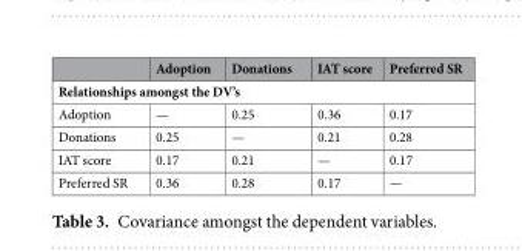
<table><thead><tr><td></td><td>Adoption</td><td>Donations</td><td>IAT score</td><td>Preferred SR</td></tr></thead><tbody><tr><td colspan="5">Relationships amongst the DV’s</td></tr><tr><td>Adoption</td><td>—</td><td>0.25</td><td>0.36</td><td>0.17</td></tr><tr><td>Donations</td><td>0.25</td><td>—</td><td>0.21</td><td>0.28</td></tr><tr><td>IAT score</td><td>0.17</td><td>0.21</td><td>—</td><td>0.17</td></tr><tr><td>Preferred SR</td><td>0.36</td><td>0.28</td><td>0.17</td><td>—</td></tr></tbody></table>